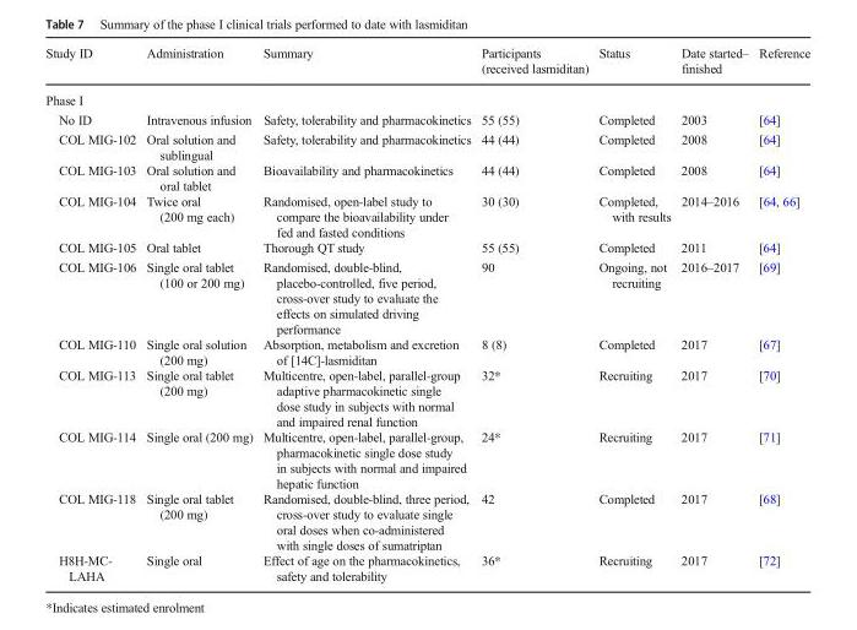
<table><thead><tr><td>Study ID</td><td>Administration</td><td>Summary</td><td>Participants (received lasmiditan)</td><td>Status</td><td>Date started– finished</td><td>Reference</td></tr></thead><tbody><tr><td colspan="7">Phase I</td></tr><tr><td>No ID</td><td>Intravenous infusion</td><td>Safety, tolerability and pharmacokinetics</td><td>55 (55)</td><td>Completed</td><td>2003</td><td>[64]</td></tr><tr><td>COL MIG-102</td><td>Oral solution and sublingual</td><td>Safety, tolerability and pharmacokinetics</td><td>44 (44)</td><td>Completed</td><td>2008</td><td>[64]</td></tr><tr><td>COL MIG-103</td><td>Oral solution and oral tablet</td><td>Bioavailability and pharmacokinetics</td><td>44 (44)</td><td>Completed</td><td>2008</td><td>[64]</td></tr><tr><td>COL MIG-104</td><td>Twice oral (200 mg each)</td><td>Randomised, open-label study to compare the bioavailability under fed and fasted conditions</td><td>30 (30)</td><td>Completed, with results</td><td>2014–2016</td><td>[64, 66]</td></tr><tr><td>COL MIG-105</td><td>Oral tablet</td><td>Thorough QT study</td><td>55 (55)</td><td>Completed</td><td>2011</td><td>[64]</td></tr><tr><td>COL MIG-106</td><td>Single oral tablet (100 or 200 mg)</td><td>Randomised, double-blind, placebo-controlled, five period, cross-over study to evaluate the effects on simulated driving performance</td><td>90</td><td>Ongoing, not recruiting</td><td>2016–2017</td><td>[69]</td></tr><tr><td>COL MIG-110</td><td>Single oral solution (200 mg)</td><td>Absorption, metabolism and excretion of [14C]-lasmiditan</td><td>8 (8)</td><td>Completed</td><td>2017</td><td>[67]</td></tr><tr><td>COL MIG-113</td><td>Single oral tablet (200 mg)</td><td>Multicentre, open-label, parallel-group adaptive pharmacokinetic single dose study in subjects with normal and impaired renal function</td><td>32*</td><td>Recruiting</td><td>2017</td><td>[70]</td></tr><tr><td>COL MIG-114</td><td>Single oral (200 mg)</td><td>Multicentre, open-label, parallel-group, pharmacokinetic single dose study in subjects with normal and impaired hepatic function</td><td>24*</td><td>Recruiting</td><td>2017</td><td>[71]</td></tr><tr><td>COL MIG-118</td><td>Single oral tablet (200 mg)</td><td>Randomised, double-blind, three period, cross-over study to evaluate single oral doses when co-administered with single doses of sumatriptan</td><td>42</td><td>Completed</td><td>2017</td><td>[68]</td></tr><tr><td>H8H-MC- LAHA</td><td>Single oral</td><td>Effect of age on the pharmacokinetics, safety and tolerability</td><td>36*</td><td>Recruiting</td><td>2017</td><td>[72]</td></tr></tbody></table>